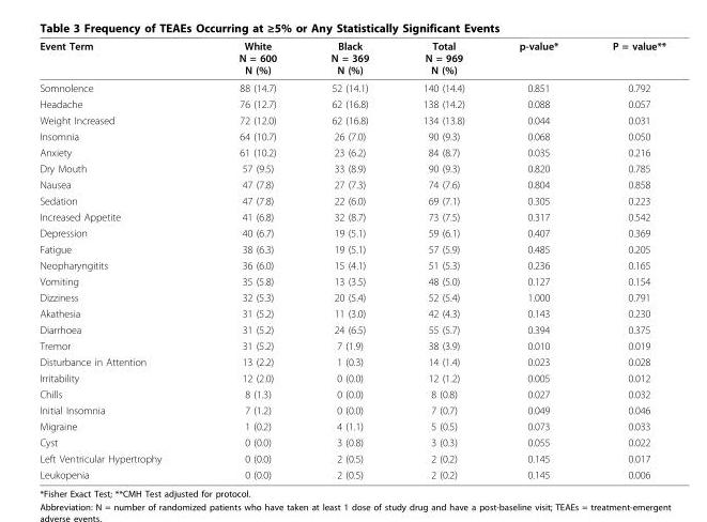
<table><thead><tr><td>Event Term</td><td>White N = 600 N (%)</td><td>Black N = 369 N (%)</td><td>Total N = 969 N (%)</td><td>p-value*</td><td>P = value**</td></tr></thead><tbody><tr><td>Somnolence</td><td>88 (14.7)</td><td>52 (14.1)</td><td>140 (14.4)</td><td>0.851</td><td>0.792</td></tr><tr><td>Headache</td><td>76 (12.7)</td><td>62 (16.8)</td><td>138 (14.2)</td><td>0.088</td><td>0.057</td></tr><tr><td>Weight Increased</td><td>72 (12.0)</td><td>62 (16.8)</td><td>134 (13.8)</td><td>0.044</td><td>0.031</td></tr><tr><td>Insomnia</td><td>64 (10.7)</td><td>26 (7.0)</td><td>90 (9.3)</td><td>0.068</td><td>0.050</td></tr><tr><td>Anxiety</td><td>61 (10.2)</td><td>23 (6.2)</td><td>84 (8.7)</td><td>0.035</td><td>0.216</td></tr><tr><td>Dry Mouth</td><td>57 (9.5)</td><td>33 (8.9)</td><td>90 (9.3)</td><td>0.820</td><td>0.785</td></tr><tr><td>Nausea</td><td>47 (7.8)</td><td>27 (7.3)</td><td>74 (7.6)</td><td>0.804</td><td>0.858</td></tr><tr><td>Sedation</td><td>47 (7.8)</td><td>22 (6.0)</td><td>69 (7.1)</td><td>0.305</td><td>0.223</td></tr><tr><td>Increased Appetite</td><td>41 (6.8)</td><td>32 (8.7)</td><td>73 (7.5)</td><td>0.317</td><td>0.542</td></tr><tr><td>Depression</td><td>40 (6.7)</td><td>19 (5.1)</td><td>59 (6.1)</td><td>0.407</td><td>0.369</td></tr><tr><td>Fatigue</td><td>38 (6.3)</td><td>19 (5.1)</td><td>57 (5.9)</td><td>0.485</td><td>0.205</td></tr><tr><td>Neopharyngitits</td><td>36 (6.0)</td><td>15 (4.1)</td><td>51 (5.3)</td><td>0.236</td><td>0.165</td></tr><tr><td>Vomiting</td><td>35 (5.8)</td><td>13 (3.5)</td><td>48 (5.0)</td><td>0.127</td><td>0.154</td></tr><tr><td>Dizziness</td><td>32 (5.3)</td><td>20 (5.4)</td><td>52 (5.4)</td><td>1.000</td><td>0.791</td></tr><tr><td>Akathesia</td><td>31 (5.2)</td><td>11 (3.0)</td><td>42 (4.3)</td><td>0.143</td><td>0.230</td></tr><tr><td>Diarrhoea</td><td>31 (5.2)</td><td>24 (6.5)</td><td>55 (5.7)</td><td>0.394</td><td>0.375</td></tr><tr><td>Tremor</td><td>31 (5.2)</td><td>7 (1.9)</td><td>38 (3.9)</td><td>0.010</td><td>0.019</td></tr><tr><td>Disturbance in Attention</td><td>13 (2.2)</td><td>1 (0.3)</td><td>14 (1.4)</td><td>0.023</td><td>0.028</td></tr><tr><td>Irritability</td><td>12 (2.0)</td><td>0 (0.0)</td><td>12 (1.2)</td><td>0.005</td><td>0.012</td></tr><tr><td>Chills</td><td>8 (1.3)</td><td>0 (0.0)</td><td>8 (0.8)</td><td>0.027</td><td>0.032</td></tr><tr><td>Initial Insomnia</td><td>7 (1.2)</td><td>0 (0.0)</td><td>7 (0.7)</td><td>0.049</td><td>0.046</td></tr><tr><td>Migraine</td><td>1 (0.2)</td><td>4 (1.1)</td><td>5 (0.5)</td><td>0.073</td><td>0.033</td></tr><tr><td>Cyst</td><td>0 (0.0)</td><td>3 (0.8)</td><td>3 (0.3)</td><td>0.055</td><td>0.022</td></tr><tr><td>Left Ventricular Hypertrophy</td><td>0 (0.0)</td><td>2 (0.5)</td><td>2 (0.2)</td><td>0.145</td><td>0.017</td></tr><tr><td>Leukopenia</td><td>0 (0.0)</td><td>2 (0.5)</td><td>2 (0.2)</td><td>0.145</td><td>0.006</td></tr></tbody></table>